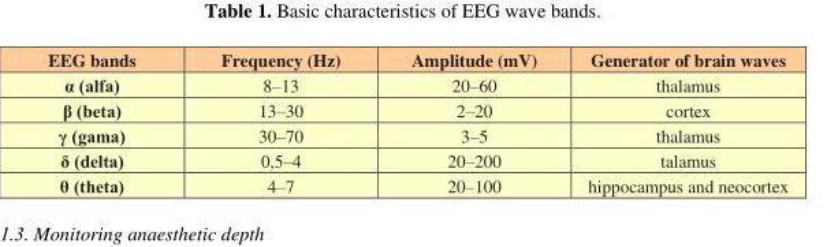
<table><thead><tr><td>EEG bands</td><td>Frequency (Hz)</td><td>Amplitude (mV)</td><td>Generator of brain waves</td></tr></thead><tbody><tr><td>α (alfa)</td><td>8–13</td><td>20–60</td><td>thalamus</td></tr><tr><td>β (beta)</td><td>13–30</td><td>2–20</td><td>cortex</td></tr><tr><td>γ (gama)</td><td>30–70</td><td>3–5</td><td>thalamus</td></tr><tr><td>δ (delta)</td><td>0,5–4</td><td>20–200</td><td>talamus</td></tr><tr><td>θ (theta)</td><td>4–7</td><td>20–100</td><td>hippocampus and neocortex</td></tr></tbody></table>